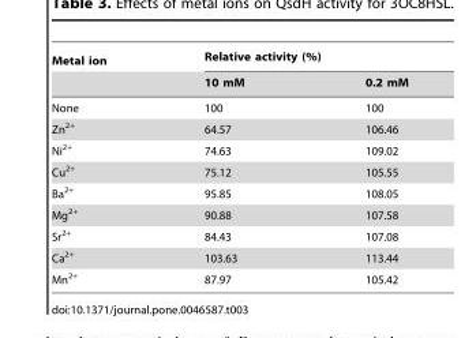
<table><thead><tr><td rowspan="2">Metal ion</td><td colspan="2">Relative activity (%)</td></tr><tr><td>10 mM</td><td>0.2 mM</td></tr></thead><tbody><tr><td>None</td><td>100</td><td>100</td></tr><tr><td>Zn<sup>2+</sup></td><td>64.57</td><td>106.46</td></tr><tr><td>Ni<sup>2+</sup></td><td>74.63</td><td>109.02</td></tr><tr><td>Cu<sup>2+</sup></td><td>75.12</td><td>105.55</td></tr><tr><td>Ba<sup>2+</sup></td><td>95.85</td><td>108.05</td></tr><tr><td>Mg<sup>2+</sup></td><td>90.88</td><td>107.58</td></tr><tr><td>Sr<sup>2+</sup></td><td>84.43</td><td>107.08</td></tr><tr><td>Ca<sup>2+</sup></td><td>103.63</td><td>113.44</td></tr><tr><td>Mn<sup>2+</sup></td><td>87.97</td><td>105.42</td></tr></tbody></table>